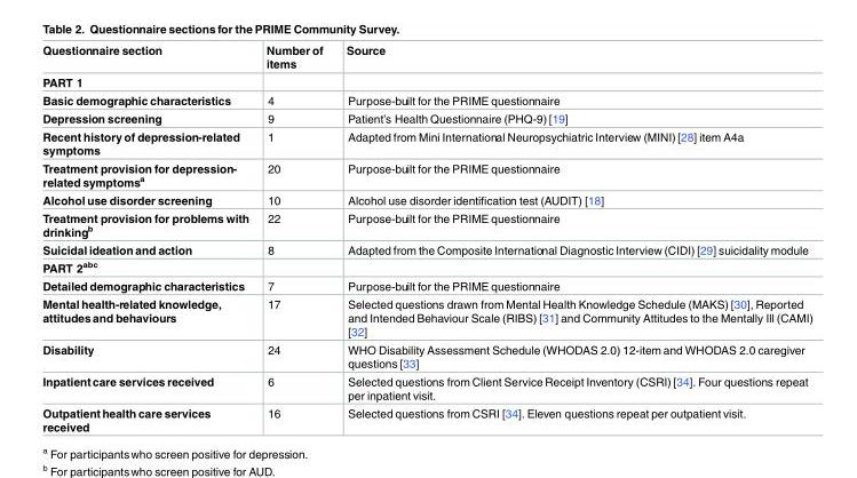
<table><thead><tr><td>Questionnaire section</td><td>Number of items</td><td>Source</td></tr></thead><tbody><tr><td colspan="3">PART 1</td></tr><tr><td>Basic demographic characteristics</td><td>4</td><td>Purpose-built for the PRIME questionnaire</td></tr><tr><td>Depression screening</td><td>9</td><td>Patient’s Health Questionnaire (PHQ-9) [19]</td></tr><tr><td>Recent history of depression-related symptoms</td><td>1</td><td>Adapted from Mini International Neuropsychiatric Interview (MINI) [28] item A4a</td></tr><tr><td>Treatment provision for depression- related symptoms<sup>a</sup></td><td>20</td><td>Purpose-built for the PRIME questionnaire</td></tr><tr><td>Alcohol use disorder screening</td><td>10</td><td>Alcohol use disorder identification test (AUDIT) [18]</td></tr><tr><td>Treatment provision for problems with drinking<sup>b</sup></td><td>22</td><td>Purpose-built for the PRIME questionnaire</td></tr><tr><td>Suicidal ideation and action</td><td>8</td><td>Adapted from the Composite International Diagnostic Interview (CIDI) [29] suicidality module</td></tr><tr><td colspan="3">PART 2<sup>abc</sup></td></tr><tr><td>Detailed demographic characteristics</td><td>7</td><td>Purpose-built for the PRIME questionnaire</td></tr><tr><td>Mental health-related knowledge, attitudes and behaviours</td><td>17</td><td>Selected questions drawn from Mental Health Knowledge Schedule (MAKS) [30], Reported and Intended Behaviour Scale (RIBS) [31] and Community Attitudes to the Mentally Ill (CAMI) [32]</td></tr><tr><td>Disability</td><td>24</td><td>WHO Disability Assessment Schedule (WHODAS 2.0) 12-item and WHODAS 2.0 caregiver questions [33]</td></tr><tr><td>Inpatient care services received</td><td>6</td><td>Selected questions from Client Service Receipt Inventory (CSRI) [34]. Four questions repeat per inpatient visit.</td></tr><tr><td>Outpatienthealth care services received</td><td>16</td><td>Selected questions from CSRI [34]. Eleven questions repeat per outpatient visit.</td></tr></tbody></table>